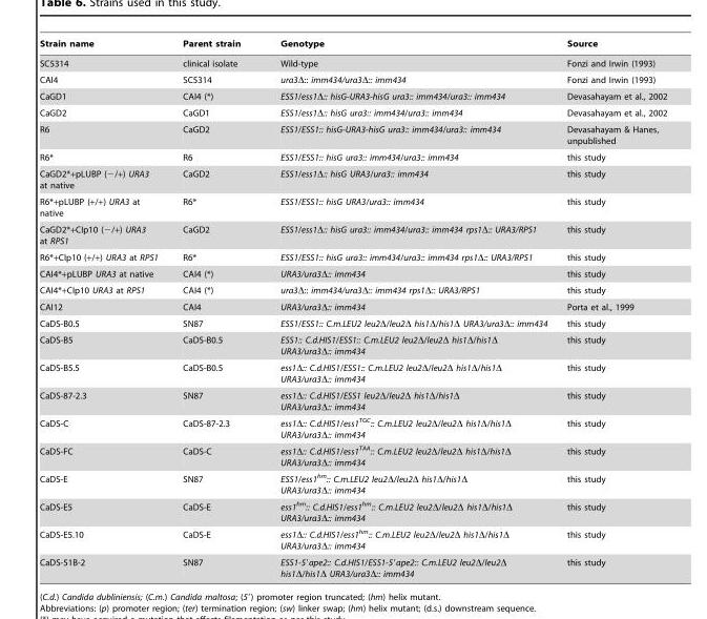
<table><thead><tr><td>Strain name</td><td>Parent strain</td><td>Genotype</td><td>Source</td></tr></thead><tbody><tr><td>SC5314</td><td>clinical isolate</td><td>Wild-type</td><td>Fonzi and Irwin (1993)</td></tr><tr><td>CAI4</td><td>SC5314</td><td>ura3Δ:: imm434/ura3Δ:: imm434</td><td>Fonzi and Irwin (1993)</td></tr><tr><td>CaGD1</td><td>CAI4 (*)</td><td>ESS1/ess1Δ:: hisG-URA3-hisG ura3:: imm434/ura3:: imm434</td><td>Devasahayam et al., 2002</td></tr><tr><td>CaGD2</td><td>CaGD1</td><td>ESS1/ess1Δ:: hisG ura3:: imm434/ura3:: imm434</td><td>Devasahayam et al., 2002</td></tr><tr><td>R6</td><td>CaGD2</td><td>ESS1/ESS1:: hisG-URA3-hisG ura3:: imm434/ura3:: imm434</td><td>Devasahayam &amp; Hanes, unpublished</td></tr><tr><td>R6*</td><td>R6</td><td>ESS1/ESS1:: hisG ura3:: imm434/ura3:: imm434</td><td>this study</td></tr><tr><td>CaGD2*+pLUBP (−/+) URA3 at native</td><td>CaGD2</td><td>ESS1/ess1Δ:: hisG URA3/ura3:: imm434</td><td>this study</td></tr><tr><td>R6*+pLUBP (+/+) URA3 at native</td><td>R6*</td><td>ESS1/ESS1:: hisG URA3/ura3:: imm434</td><td>this study</td></tr><tr><td>CaGD2*+CIp10 (−/+) URA3 at RPS1</td><td>CaGD2</td><td>ESS1/ess1Δ:: hisG ura3:: imm434/ura3:: imm434 rps1Δ:: URA3/RPS1</td><td>this study</td></tr><tr><td>R6*+CIp10 (+/+) URA3 at RPS1</td><td>R6*</td><td>ESS1/ESS1:: hisG ura3:: imm434/ura3:: imm434 rps1Δ:: URA3/RPS1</td><td>this study</td></tr><tr><td>CAI4*+pLUBP URA3 at native</td><td>CAI4 (*)</td><td>URA3/ura3Δ:: imm434</td><td>this study</td></tr><tr><td>CAI4*+CIp10 URA3 at RPS1</td><td>CAI4 (*)</td><td>ura3Δ:: imm434/ura3Δ:: imm434 rps1Δ:: URA3/RPS1</td><td>this study</td></tr><tr><td>CAI12</td><td>CAI4</td><td>URA3/ura3Δ:: imm434</td><td>Porta et al., 1999</td></tr><tr><td>CaDS-B0.5</td><td>SN87</td><td>ESS1/ESS1:: C.m.LEU2 leu2Δ/leu2Δ his1Δ/his1Δ URA3/ura3Δ:: imm434</td><td>this study</td></tr><tr><td>CaDS-B5</td><td>CaDS-B0.5</td><td>ESS1:: C.d.HIS1/ESS1:: C.m.LEU2 leu2Δ/leu2Δ his1Δ/his1Δ URA3/ura3Δ:: imm434</td><td>this study</td></tr><tr><td>CaDS-B5.5</td><td>CaDS-B0.5</td><td>ess1Δ:: C.d.HIS1/ESS1:: C.m.LEU2 leu2Δ/leu2Δ his1Δ/his1Δ URA3/ura3Δ:: imm434</td><td>this study</td></tr><tr><td>CaDS-87-2.3</td><td>SN87</td><td>ess1Δ:: C.d.HIS1/ESS1 leu2Δ/leu2Δ his1Δ/his1Δ URA3/ura3Δ:: imm434</td><td>this study</td></tr><tr><td>CaDS-C</td><td>CaDS-87-2.3</td><td>ess1Δ:: C.d.HIS1/ess1<sup>TGC</sup>:: C.m.LEU2 leu2Δ/leu2Δ his1Δ/his1Δ URA3/ura3Δ:: imm434</td><td>this study</td></tr><tr><td>CaDS-FC</td><td>CaDS-C</td><td>ess1Δ:: C.d.HIS1/ess1<sup>TAA</sup>:: C.m.LEU2 leu2Δ/leu2Δ his1Δ/his1Δ URA3/ura3Δ:: imm434</td><td>this study</td></tr><tr><td>CaDS-E</td><td>SN87</td><td>ESS1/ess1<sup>hm</sup>:: C.m.LEU2 leu2Δ/leu2Δ his1Δ/his1Δ URA3/ura3Δ:: imm434</td><td>this study</td></tr><tr><td>CaDS-E5</td><td>CaDS-E</td><td>ess1<sup>hm</sup>:: C.d.HIS1/ess1<sup>hm</sup>:: C.m.LEU2 leu2Δ/leu2Δ his1Δ/his1Δ URA3/ura3Δ:: imm434</td><td>this study</td></tr><tr><td>CaDS-E5.10</td><td>CaDS-E</td><td>ess1Δ:: C.d.HIS1/ess1<sup>hm</sup>:: C.m.LEU2 leu2Δ/leu2Δ his1Δ/his1Δ URA3/ura3Δ:: imm434</td><td>this study</td></tr><tr><td>CaDS-51B-2</td><td>SN87</td><td>ESS1-5′ape2:: C.d.HIS1/ESS1-5′ape2:: C.m.LEU2 leu2Δ/leu2Δ his1Δ/his1Δ URA3/ura3Δ:: imm434</td><td>this study</td></tr></tbody></table>